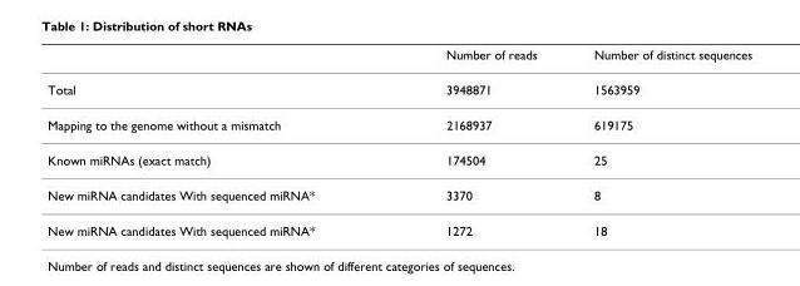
<table><thead><tr><td></td><td>Number of reads</td><td>Number of distinct sequences</td></tr></thead><tbody><tr><td>Total</td><td>3948871</td><td>1563959</td></tr><tr><td>Mapping to the genome without a mismatch</td><td>2168937</td><td>619175</td></tr><tr><td>Known miRNAs (exact match)</td><td>174504</td><td>25</td></tr><tr><td>New miRNA candidates With sequenced miRNA*</td><td>3370</td><td>8</td></tr><tr><td>New miRNA candidates With sequenced miRNA*</td><td>1272</td><td>18</td></tr></tbody></table>